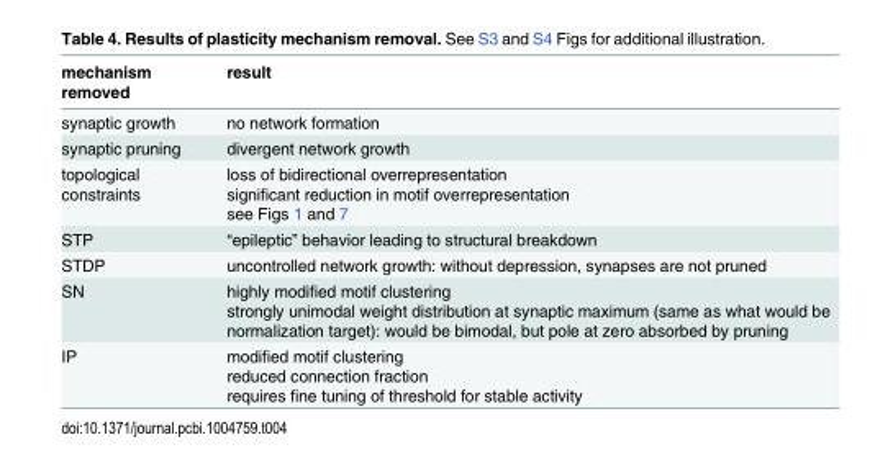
<table><thead><tr><td>mechanism removed</td><td>result</td></tr></thead><tbody><tr><td>synaptic growth</td><td>no network formation</td></tr><tr><td>synaptic pruning</td><td>divergent network growth</td></tr><tr><td>topological constraints</td><td>loss of bidirectional overrepresentation significant reduction in motif overrepresentation see Figs 1 and 7</td></tr><tr><td>STP</td><td>“epileptic” behavior leading to structural breakdown</td></tr><tr><td>STDP</td><td>uncontrolled network growth: without depression, synapses are not pruned</td></tr><tr><td>SN</td><td>highly modified motif clustering strongly unimodal weight distribution at synaptic maximum (same as what would be normalization target): would be bimodal, but pole at zero absorbed by pruning</td></tr><tr><td>IP</td><td>modified motif clustering reduced connection fraction requires fine tuning of threshold for stable activity</td></tr></tbody></table>